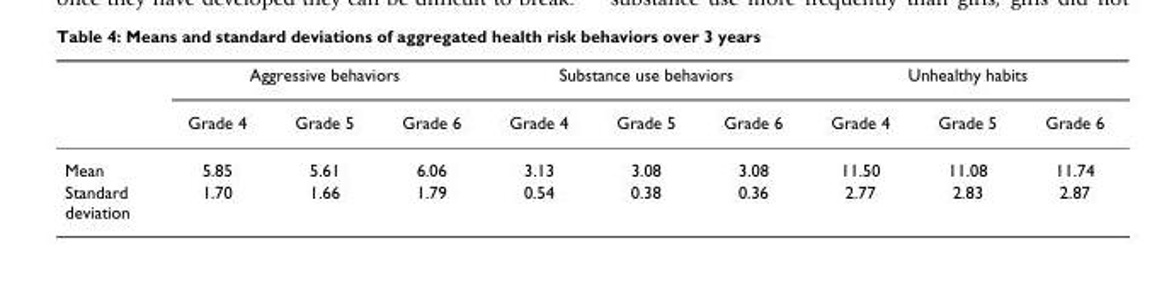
<table><thead><tr><td rowspan="2"></td><td colspan="3">Aggressive behaviors</td><td colspan="3">Substance use behaviors</td><td colspan="3">Unhealthy habits</td></tr><tr><td>Grade 4</td><td>Grade 5</td><td>Grade 6</td><td>Grade 4</td><td>Grade 5</td><td>Grade 6</td><td>Grade 4</td><td>Grade 5</td><td>Grade 6</td></tr></thead><tbody><tr><td>Mean</td><td>5.85</td><td>5.61</td><td>6.06</td><td>3.13</td><td>3.08</td><td>3.08</td><td>11.50</td><td>11.08</td><td>11.74</td></tr><tr><td>Standard deviation</td><td>1.70</td><td>1.66</td><td>1.79</td><td>0.54</td><td>0.38</td><td>0.36</td><td>2.77</td><td>2.83</td><td>2.87</td></tr></tbody></table>